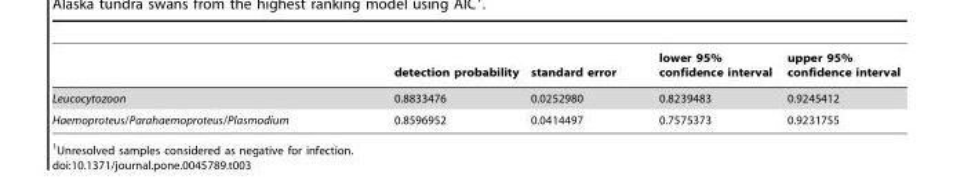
<table><thead><tr><td></td><td>detection probability</td><td>standard error</td><td>lower 95% confidence interval</td><td>upper 95% confidence interval</td></tr></thead><tbody><tr><td>Leucocytozoon</td><td>0.8833476</td><td>0.0252980</td><td>0.8239483</td><td>0.9245412</td></tr><tr><td>Haemoproteus/Parahaemoproteus/Plasmodium</td><td>0.8596952</td><td>0.0414497</td><td>0.7575373</td><td>0.9231755</td></tr></tbody></table>